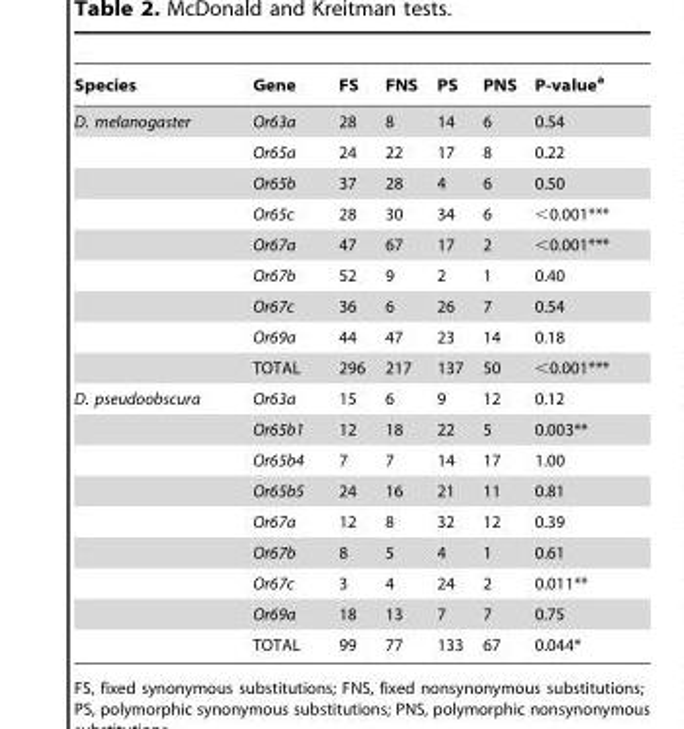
<table><thead><tr><td>Species</td><td>Gene</td><td>FS</td><td>FNS</td><td>PS</td><td>PNS</td><td>P-value<sup>a</sup></td></tr></thead><tbody><tr><td rowspan="9">D. melanogaster</td><td>Or63a</td><td>28</td><td>8</td><td>14</td><td>6</td><td>0.54</td></tr><tr><td>Or65a</td><td>24</td><td>22</td><td>17</td><td>8</td><td>0.22</td></tr><tr><td>Or65b</td><td>37</td><td>28</td><td>4</td><td>6</td><td>0.50</td></tr><tr><td>Or65c</td><td>28</td><td>30</td><td>34</td><td>6</td><td>&lt;0.001***</td></tr><tr><td>Or67a</td><td>47</td><td>67</td><td>17</td><td>2</td><td>&lt;0.001***</td></tr><tr><td>Or67b</td><td>52</td><td>9</td><td>2</td><td>1</td><td>0.40</td></tr><tr><td>Or67c</td><td>36</td><td>6</td><td>26</td><td>7</td><td>0.54</td></tr><tr><td>Or69a</td><td>44</td><td>47</td><td>23</td><td>14</td><td>0.18</td></tr><tr><td>TOTAL</td><td>296</td><td>217</td><td>137</td><td>50</td><td>&lt;0.001***</td></tr><tr><td rowspan="9">D. pseudoobscura</td><td>Or63a</td><td>15</td><td>6</td><td>9</td><td>12</td><td>0.12</td></tr><tr><td>Or65b1</td><td>12</td><td>18</td><td>22</td><td>5</td><td>0.003**</td></tr><tr><td>Or65b4</td><td>7</td><td>7</td><td>14</td><td>17</td><td>1.00</td></tr><tr><td>Or65b5</td><td>24</td><td>16</td><td>21</td><td>11</td><td>0.81</td></tr><tr><td>Or67a</td><td>12</td><td>8</td><td>32</td><td>12</td><td>0.39</td></tr><tr><td>Or67b</td><td>8</td><td>5</td><td>4</td><td>1</td><td>0.61</td></tr><tr><td>Or67c</td><td>3</td><td>4</td><td>24</td><td>2</td><td>0.011**</td></tr><tr><td>Or69a</td><td>18</td><td>13</td><td>7</td><td>7</td><td>0.75</td></tr><tr><td>TOTAL</td><td>99</td><td>77</td><td>133</td><td>67</td><td>0.044*</td></tr></tbody></table>